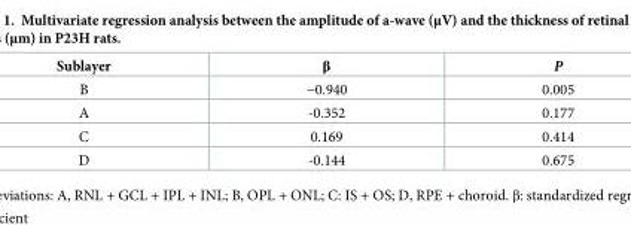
<table><thead><tr><td>Sublayer</td><td>β</td><td>P</td></tr></thead><tbody><tr><td>B</td><td>−0.940</td><td>0.005</td></tr><tr><td>A</td><td>-0.352</td><td>0.177</td></tr><tr><td>C</td><td>0.169</td><td>0.414</td></tr><tr><td>D</td><td>-0.144</td><td>0.675</td></tr></tbody></table>